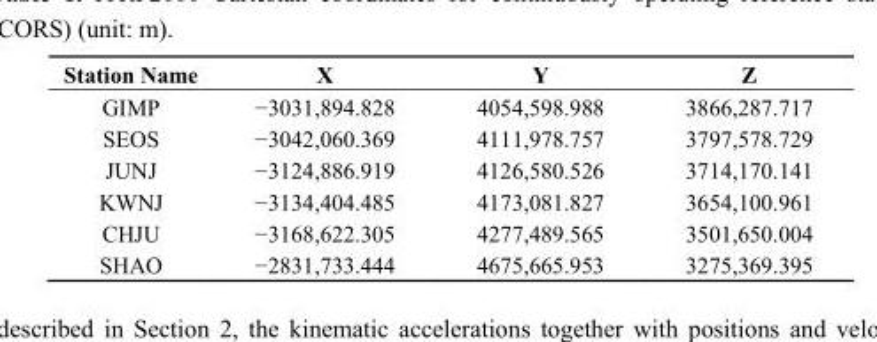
<table><thead><tr><td>Station Name</td><td>X</td><td>Y</td><td>Z</td></tr></thead><tbody><tr><td>GIMP</td><td>−3031,894.828</td><td>4054,598.988</td><td>3866,287.717</td></tr><tr><td>SEOS</td><td>−3042,060.369</td><td>4111,978.757</td><td>3797,578.729</td></tr><tr><td>JUNJ</td><td>−3124,886.919</td><td>4126,580.526</td><td>3714,170.141</td></tr><tr><td>KWNJ</td><td>−3134,404.485</td><td>4173,081.827</td><td>3654,100.961</td></tr><tr><td>CHJU</td><td>−3168,622.305</td><td>4277,489.565</td><td>3501,650.004</td></tr><tr><td>SHAO</td><td>−2831,733.444</td><td>4675,665.953</td><td>3275,369.395</td></tr></tbody></table>